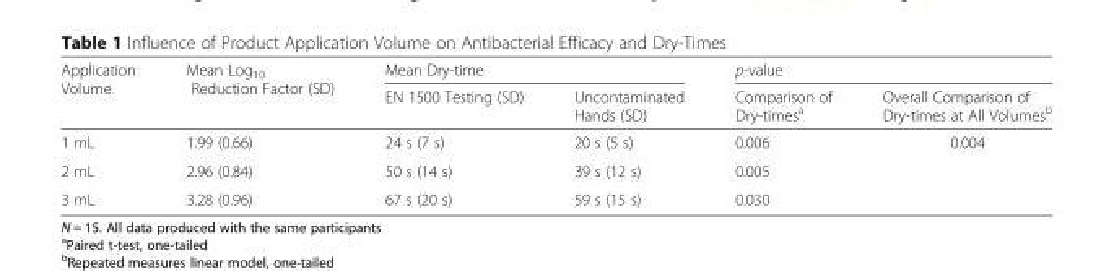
<table><thead><tr><td rowspan="2">Application Volume</td><td rowspan="2">Mean Log<sub>10</sub> Reduction Factor (SD)</td><td colspan="2">Mean Dry-time</td><td colspan="2">p-value</td></tr><tr><td>EN 1500 Testing (SD)</td><td>Uncontaminated Hands (SD)</td><td>Comparison of Dry-times<sup>a</sup></td><td>Overall Comparison of Dry-times at All Volumes<sup>b</sup></td></tr></thead><tbody><tr><td>1 mL</td><td>1.99 (0.66)</td><td>24 s (7 s)</td><td>20 s (5 s)</td><td>0.006</td><td rowspan="3">0.004</td></tr><tr><td>2 mL</td><td>2.96 (0.84)</td><td>50 s (14 s)</td><td>39 s (12 s)</td><td>0.005</td></tr><tr><td>3 mL</td><td>3.28 (0.96)</td><td>67 s (20 s)</td><td>59 s (15 s)</td><td>0.030</td></tr></tbody></table>